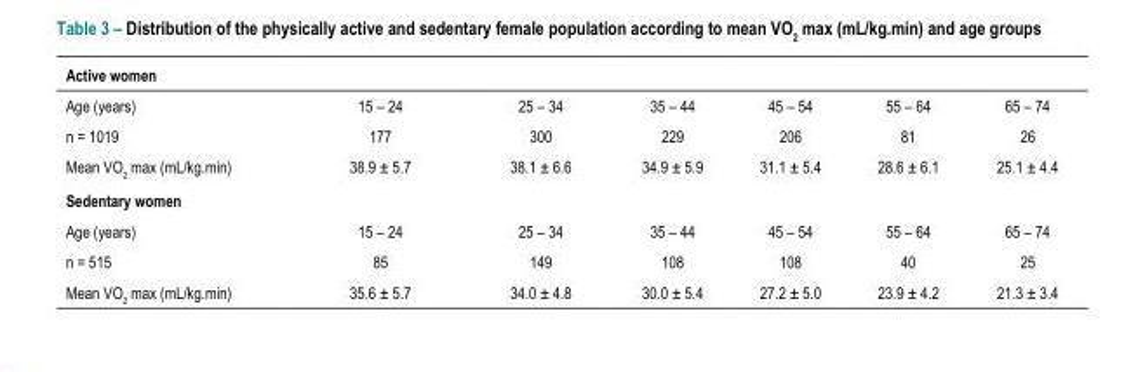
<table><thead><tr><td colspan="7">Active women</td></tr><tr><td>Age (years)</td><td>15 – 24</td><td>25 – 34</td><td>35 – 44</td><td>45 – 54</td><td>55 – 64</td><td>65 – 74</td></tr></thead><tbody><tr><td>n = 1019</td><td>177</td><td>300</td><td>229</td><td>206</td><td>81</td><td>26</td></tr><tr><td>Mean VO<sub>2</sub> max (mL/kg.min)</td><td>38.9 ± 5.7</td><td>38.1 ± 6.6</td><td>34.9 ± 5.9</td><td>31.1 ± 5.4</td><td>28.6 ± 6.1</td><td>25.1 ± 4.4</td></tr><tr><td colspan="7">Sedentary women</td></tr><tr><td>Age (years)</td><td>15 – 24</td><td>25 – 34</td><td>35 – 44</td><td>45 – 54</td><td>55 – 64</td><td>65 – 74</td></tr><tr><td>n = 515</td><td>85</td><td>149</td><td>108</td><td>108</td><td>40</td><td>25</td></tr><tr><td>Mean VO<sub>2</sub> max (mL/kg.min)</td><td>35.6 ± 5.7</td><td>34.0 ± 4.8</td><td>30.0 ± 5.4</td><td>27.2 ± 5.0</td><td>23.9 ± 4.2</td><td>21.3 ± 3.4</td></tr></tbody></table>